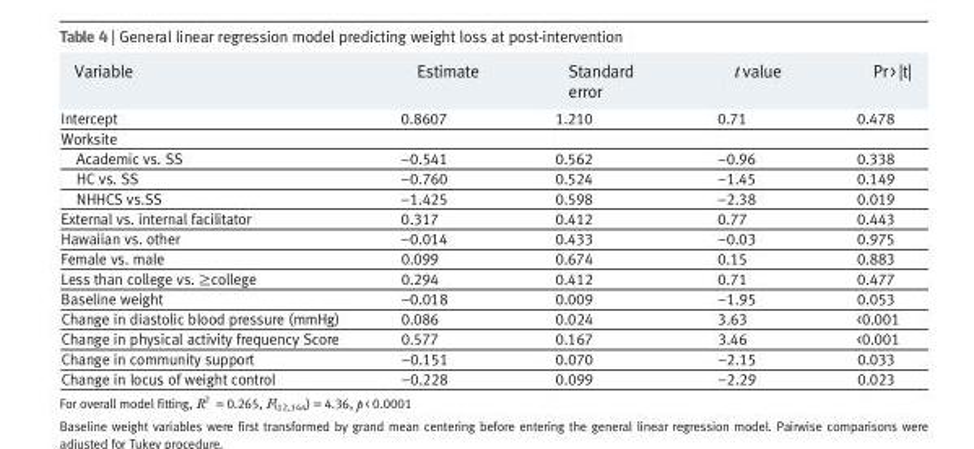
<table><thead><tr><td>Variable</td><td>Estimate</td><td>Standard error</td><td>t value</td><td>Pr &gt; |t|</td></tr></thead><tbody><tr><td>Intercept</td><td>0.8607</td><td>1.210</td><td>0.71</td><td>0.478</td></tr><tr><td colspan="5">Worksite</td></tr><tr><td>Academic vs. SS</td><td>−0.541</td><td>0.562</td><td>−0.96</td><td>0.338</td></tr><tr><td>HC vs. SS</td><td>−0.760</td><td>0.524</td><td>−1.45</td><td>0.149</td></tr><tr><td>NHHCS vs.SS</td><td>−1.425</td><td>0.598</td><td>−2.38</td><td>0.019</td></tr><tr><td>External vs. internal facilitator</td><td>0.317</td><td>0.412</td><td>0.77</td><td>0.443</td></tr><tr><td>Hawaiian vs. other</td><td>−0.014</td><td>0.433</td><td>−0.03</td><td>0.975</td></tr><tr><td>Female vs. male</td><td>0.099</td><td>0.674</td><td>0.15</td><td>0.883</td></tr><tr><td>Less than college vs. ≥college</td><td>0.294</td><td>0.412</td><td>0.71</td><td>0.477</td></tr><tr><td>Baseline weight</td><td>−0.018</td><td>0.009</td><td>−1.95</td><td>0.053</td></tr><tr><td>Change in diastolic blood pressure (mmHg)</td><td>0.086</td><td>0.024</td><td>3.63</td><td>&lt;0.001</td></tr><tr><td>Change in physical activity frequency Score</td><td>0.577</td><td>0.167</td><td>3.46</td><td>&lt;0.001</td></tr><tr><td>Change in community support</td><td>−0.151</td><td>0.070</td><td>−2.15</td><td>0.033</td></tr><tr><td>Change in locus of weight control</td><td>−0.228</td><td>0.099</td><td>−2.29</td><td>0.023</td></tr></tbody></table>